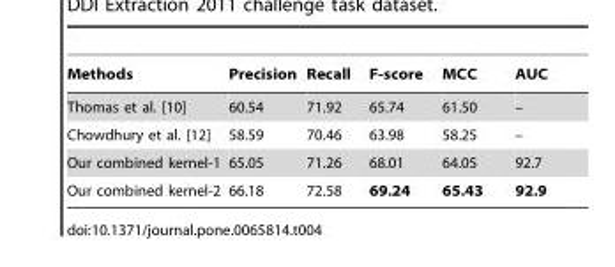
<table><thead><tr><td>Methods</td><td>Precision</td><td>Recall</td><td>F-score</td><td>MCC</td><td>AUC</td></tr></thead><tbody><tr><td>Thomas et al. [10]</td><td>60.54</td><td>71.92</td><td>65.74</td><td>61.50</td><td>–</td></tr><tr><td>Chowdhury et al. [12]</td><td>58.59</td><td>70.46</td><td>63.98</td><td>58.25</td><td>–</td></tr><tr><td>Our combined kernel-1</td><td>65.05</td><td>71.26</td><td>68.01</td><td>64.05</td><td>92.7</td></tr><tr><td>Our combined kernel-2</td><td>66.18</td><td>72.58</td><td>69.24</td><td>65.43</td><td>92.9</td></tr></tbody></table>